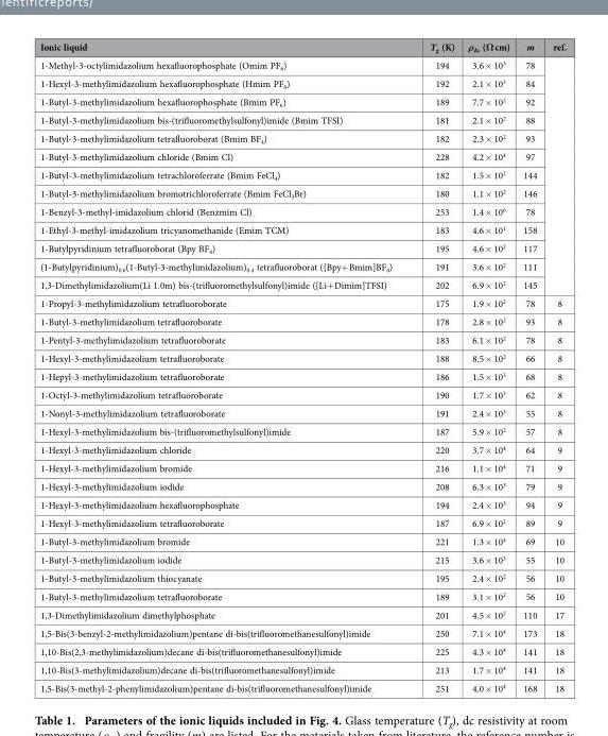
<table><thead><tr><td>Ionic liquid</td><td>T<sub>g</sub> (K)</td><td>ρ<sub>dc</sub> (Ω cm)</td><td>m</td><td>ref.</td></tr></thead><tbody><tr><td>1-Methyl-3-octylimidazolium hexafluorophosphate (Omim PF<sub>6</sub>)</td><td>194</td><td>3.6 × 10<sup>3</sup></td><td>78</td><td rowspan="13"></td></tr><tr><td>1-Hexyl-3-methylimidazolium hexafluorophosphate (Hmim PF<sub>6</sub>)</td><td>192</td><td>2.1 × 10<sup>3</sup></td><td>84</td></tr><tr><td>1-Butyl-3-methylimidazolium hexafluorophosphate (Bmim PF<sub>6</sub>)</td><td>189</td><td>7.7 × 10<sup>2</sup></td><td>92</td></tr><tr><td>1-Butyl-3-methylimidazolium bis-(trifluoromethylsulfonyl)imide (Bmim TFSI)</td><td>181</td><td>2.1 × 10<sup>2</sup></td><td>88</td></tr><tr><td>1-Butyl-3-methylimidazolium tetrafluoroborat (Bmim BF<sub>4</sub>)</td><td>182</td><td>2.3 × 10<sup>2</sup></td><td>93</td></tr><tr><td>1-Butyl-3-methylimidazolium chloride (Bmim Cl)</td><td>228</td><td>4.2 × 10<sup>4</sup></td><td>97</td></tr><tr><td>1-Butyl-3-methylimidazolium tetrachloroferrate (Bmim FeCl<sub>4</sub>)</td><td>182</td><td>1.5 × 10<sup>2</sup></td><td>144</td></tr><tr><td>1-Butyl-3-methylimidazolium bromotrichloroferrate (Bmim FeCl<sub>3</sub>Br)</td><td>180</td><td>1.1 × 10<sup>2</sup></td><td>146</td></tr><tr><td>1-Benzyl-3-methyl-imidazolium chlorid (Benzmim Cl)</td><td>253</td><td>1.4 × 10<sup>6</sup></td><td>78</td></tr><tr><td>1-Ethyl-3-methyl-imidazolium tricyanomethanide (Emim TCM)</td><td>183</td><td>4.6 × 10<sup>1</sup></td><td>158</td></tr><tr><td>1-Butylpyridinium tetrafluoroborat (Bpy BF<sub>4</sub>)</td><td>195</td><td>4.6 × 10<sup>2</sup></td><td>117</td></tr><tr><td>(1-Butylpyridinium)<sub>0.6</sub>(1-Butyl-3-methylimidazolium)<sub>0.4</sub> tetrafluoroborat ([Bpy+ Bmim]BF<sub>4</sub>)</td><td>191</td><td>3.6 × 10<sup>2</sup></td><td>111</td></tr><tr><td>1,3-Dimethylimidazolium(Li 1.0m) bis-(trifluoromethylsulfonyl)imide ([Li+ Dimim]TFSI)</td><td>202</td><td>6.9 × 10<sup>2</sup></td><td>145</td></tr><tr><td>1-Propyl-3-methylimidazolium tetrafluoroborate</td><td>175</td><td>1.9 × 10<sup>2</sup></td><td>78</td><td>8</td></tr><tr><td>1-Butyl-3-methylimidazolium tetrafluoroborate</td><td>178</td><td>2.8 × 10<sup>2</sup></td><td>93</td><td>8</td></tr><tr><td>1-Pentyl-3-methylimidazolium tetrafluoroborate</td><td>183</td><td>6.1 × 10<sup>2</sup></td><td>78</td><td>8</td></tr><tr><td>1-Hexyl-3-methylimidazolium tetrafluoroborate</td><td>188</td><td>8.5 × 10<sup>2</sup></td><td>66</td><td>8</td></tr><tr><td>1-Hepyl-3-methylimidazolium tetrafluoroborate</td><td>186</td><td>1.5 × 10<sup>3</sup></td><td>68</td><td>8</td></tr><tr><td>1-Octyl-3-methylimidazolium tetrafluoroborate</td><td>190</td><td>1.7 × 10<sup>3</sup></td><td>62</td><td>8</td></tr><tr><td>1-Nonyl-3-methylimidazolium tetrafluoroborate</td><td>191</td><td>2.4 × 10<sup>3</sup></td><td>55</td><td>8</td></tr><tr><td>1-Hexyl-3-methylimidazolium bis-(trifluoromethylsulfonyl)imide</td><td>187</td><td>5.9 × 10<sup>2</sup></td><td>57</td><td>8</td></tr><tr><td>1-Hexyl-3-methylimidazolium chloride</td><td>220</td><td>3.7 × 10<sup>4</sup></td><td>64</td><td>9</td></tr><tr><td>1-Hexyl-3-methylimidazolium bromide</td><td>216</td><td>1.1 × 10<sup>4</sup></td><td>71</td><td>9</td></tr><tr><td>1-Hexyl-3-methylimidazolium iodide</td><td>208</td><td>6.3 × 10<sup>3</sup></td><td>79</td><td>9</td></tr><tr><td>1-Hexyl-3-methylimidazolium hexafluorophosphate</td><td>194</td><td>2.4 × 10<sup>3</sup></td><td>94</td><td>9</td></tr><tr><td>1-Hexyl-3-methylimidazolium tetrafluoroborate</td><td>187</td><td>6.9 × 10<sup>2</sup></td><td>89</td><td>9</td></tr><tr><td>1-Butyl-3-methylimidazolium bromide</td><td>221</td><td>1.3 × 10<sup>4</sup></td><td>69</td><td>10</td></tr><tr><td>1-Butyl-3-methylimidazolium iodide</td><td>215</td><td>3.6 × 10<sup>3</sup></td><td>55</td><td>10</td></tr><tr><td>1-Butyl-3-methylimidazolium thiocyanate</td><td>195</td><td>2.4 × 10<sup>2</sup></td><td>56</td><td>10</td></tr><tr><td>1-Butyl-3-methylimidazolium tetrafluoroborate</td><td>189</td><td>3.1 × 10<sup>2</sup></td><td>56</td><td>10</td></tr><tr><td>1,3-Dimethylimidazolium dimethylphosphate</td><td>201</td><td>4.5 × 10<sup>2</sup></td><td>110</td><td>17</td></tr><tr><td>1,5-Bis(3-benzyl-2-methylimidazolium)pentane di-bis(trifluoromethanesulfonyl)imide</td><td>250</td><td>7.1 × 10<sup>4</sup></td><td>173</td><td>18</td></tr><tr><td>1,10-Bis(2,3-methylimidazolium)decane di-bis(trifluoromethanesulfonyl)imide</td><td>225</td><td>4.3 × 10<sup>4</sup></td><td>141</td><td>18</td></tr><tr><td>1,10-Bis(3-methylimidazolium)decane di-bis(trifluoromethanesulfonyl)imide</td><td>213</td><td>1.7 × 10<sup>4</sup></td><td>141</td><td>18</td></tr><tr><td>1,5-Bis(3-methyl-2-phenylimidazolium)pentane di-bis(trifluoromethanesulfonyl)imide</td><td>251</td><td>4.0 × 10<sup>4</sup></td><td>168</td><td>18</td></tr></tbody></table>